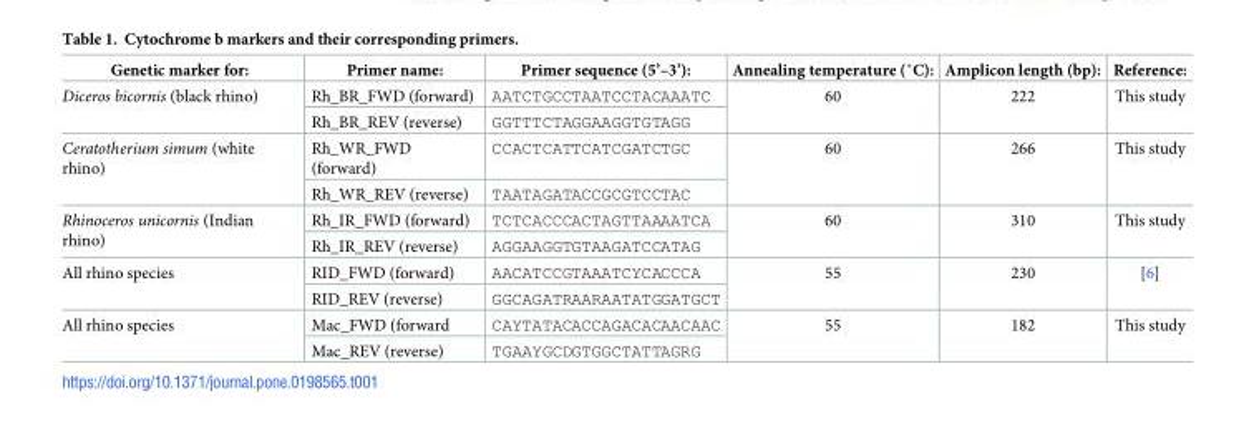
<table><thead><tr><td>Genetic marker for:</td><td>Primer name:</td><td>Primer sequence (5’–3’):</td><td>Annealing temperature (˚C):</td><td>Amplicon length (bp):</td><td>Reference:</td></tr></thead><tbody><tr><td rowspan="2">Diceros bicornis (black rhino)</td><td>Rh_BR_FWD (forward)</td><td>AATCTGCCTAATCCTACAAATC</td><td rowspan="2">60</td><td rowspan="2">222</td><td rowspan="2">This study</td></tr><tr><td>Rh_BR_REV (reverse)</td><td>GGTTTCTAGGAAGGTGTAGG</td></tr><tr><td rowspan="2">Ceratotherium simum (white rhino)</td><td>Rh_WR_FWD (forward)</td><td>CCACTCATTCATCGATCTGC</td><td rowspan="2">60</td><td rowspan="2">266</td><td rowspan="2">This study</td></tr><tr><td>Rh_WR_REV (reverse)</td><td>TAATAGATACCGCGTCCTAC</td></tr><tr><td rowspan="2">Rhinoceros unicornis (Indian rhino)</td><td>Rh_IR_FWD (forward)</td><td>TCTCACCCACTAGTTAAAATCA</td><td rowspan="2">60</td><td rowspan="2">310</td><td rowspan="2">This study</td></tr><tr><td>Rh_IR_REV (reverse)</td><td>AGGAAGGTGTAAGATCCATAG</td></tr><tr><td rowspan="2">All rhino species</td><td>RID_FWD (forward)</td><td>AACATCCGTAAATCYCACCCA</td><td rowspan="2">55</td><td rowspan="2">230</td><td rowspan="2">[6]</td></tr><tr><td>RID_REV (reverse)</td><td>GGCAGATRAARAATATGGATGCT</td></tr><tr><td rowspan="2">All rhino species</td><td>Mac_FWD (forward</td><td>CAYTATACACCAGACACAACAAC</td><td rowspan="2">55</td><td rowspan="2">182</td><td rowspan="2">This study</td></tr><tr><td>Mac_REV (reverse)</td><td>TGAAYGCDGTGGCTATTAGRG</td></tr></tbody></table>